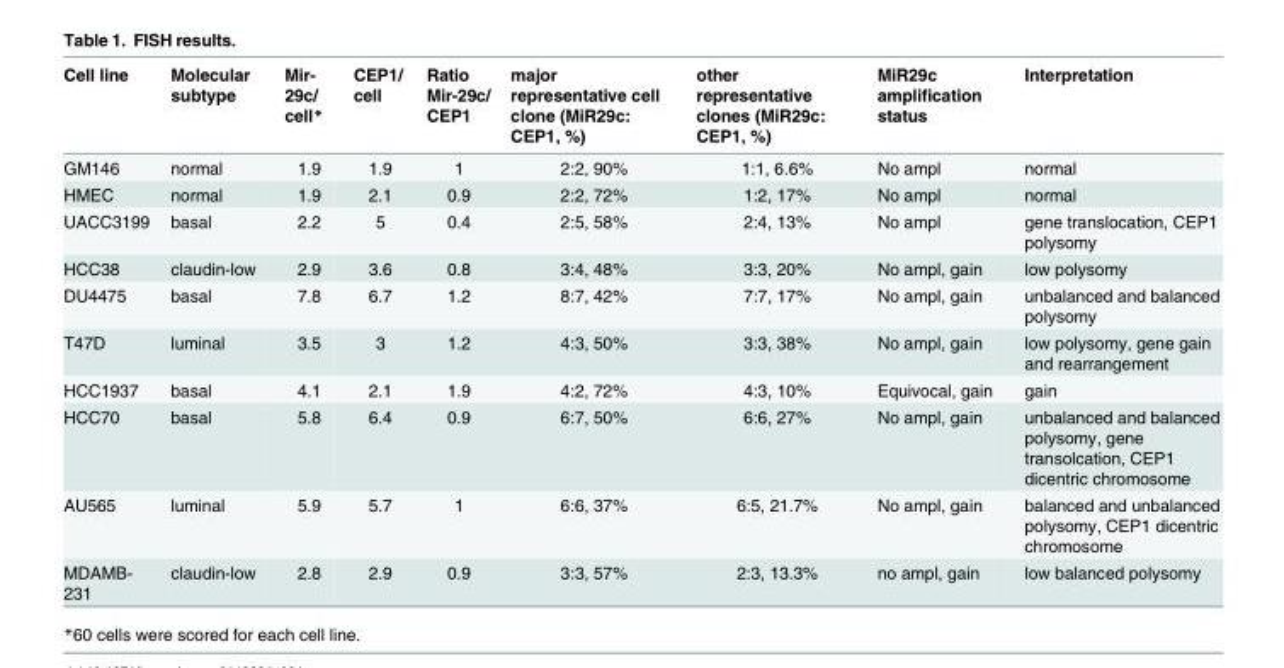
<table><thead><tr><td>Cell line</td><td>Molecular subtype</td><td>Mir- 29c/ cell*</td><td>CEP1/ cell</td><td>Ratio Mir-29c/ CEP1</td><td>major representative cell clone (MiR29c: CEP1, %)</td><td>other representative clones (MiR29c: CEP1, %)</td><td>MiR29c amplification status</td><td>Interpretation</td></tr></thead><tbody><tr><td>GM146</td><td>normal</td><td>1.9</td><td>1.9</td><td>1</td><td>2:2, 90%</td><td>1:1, 6.6%</td><td>No ampl</td><td>normal</td></tr><tr><td>HMEC</td><td>normal</td><td>1.9</td><td>2.1</td><td>0.9</td><td>2:2, 72%</td><td>1:2, 17%</td><td>No ampl</td><td>normal</td></tr><tr><td>UACC3199</td><td>basal</td><td>2.2</td><td>5</td><td>0.4</td><td>2:5, 58%</td><td>2:4, 13%</td><td>No ampl</td><td>gene translocation, CEP1 polysomy</td></tr><tr><td>HCC38</td><td>claudin-low</td><td>2.9</td><td>3.6</td><td>0.8</td><td>3:4, 48%</td><td>3:3, 20%</td><td>No ampl, gain</td><td>low polysomy</td></tr><tr><td>DU4475</td><td>basal</td><td>7.8</td><td>6.7</td><td>1.2</td><td>8:7, 42%</td><td>7:7, 17%</td><td>No ampl, gain</td><td>unbalanced and balanced polysomy</td></tr><tr><td>T47D</td><td>luminal</td><td>3.5</td><td>3</td><td>1.2</td><td>4:3, 50%</td><td>3:3, 38%</td><td>No ampl, gain</td><td>low polysomy, gene gain and rearrangement</td></tr><tr><td>HCC1937</td><td>basal</td><td>4.1</td><td>2.1</td><td>1.9</td><td>4:2, 72%</td><td>4:3, 10%</td><td>Equivocal, gain</td><td>gain</td></tr><tr><td>HCC70</td><td>basal</td><td>5.8</td><td>6.4</td><td>0.9</td><td>6:7, 50%</td><td>6:6, 27%</td><td>No ampl, gain</td><td>unbalanced and balanced polysomy, gene transolcation, CEP1 dicentric chromosome</td></tr><tr><td>AU565</td><td>luminal</td><td>5.9</td><td>5.7</td><td>1</td><td>6:6, 37%</td><td>6:5, 21.7%</td><td>No ampl, gain</td><td>balanced and unbalanced polysomy, CEP1 dicentric chromosome</td></tr><tr><td>MDAMB- 231</td><td>claudin-low</td><td>2.8</td><td>2.9</td><td>0.9</td><td>3:3, 57%</td><td>2:3, 13.3%</td><td>no ampl, gain</td><td>low balanced polysomy</td></tr></tbody></table>